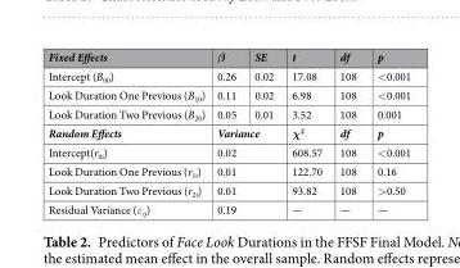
<table><thead><tr><td>Fixed Effects</td><td>β</td><td>SE</td><td>t</td><td>df</td><td>p</td></tr></thead><tbody><tr><td>Intercept (B<sub>00</sub>)</td><td>0.26</td><td>0.02</td><td>17.08</td><td>108</td><td>&lt;0.001</td></tr><tr><td>Look Duration One Previous (B<sub>10</sub>)</td><td>0.11</td><td>0.02</td><td>6.98</td><td>108</td><td>&lt;0.001</td></tr><tr><td>Look Duration Two Previous (B<sub>20</sub>)</td><td>0.05</td><td>0.01</td><td>3.52</td><td>108</td><td>0.001</td></tr><tr><td>Random Effects</td><td colspan="2">Variance</td><td>χ<sup>2</sup></td><td>df</td><td>p</td></tr><tr><td>Intercept(r<sub>0i</sub>)</td><td colspan="2">0.02</td><td>608.57</td><td>108</td><td>&lt;0.001</td></tr><tr><td>Look Duration One Previous (r<sub>1i</sub>)</td><td colspan="2">0.01</td><td>122.70</td><td>108</td><td>0.16</td></tr><tr><td>Look Duration Two Previous (r<sub>2i</sub>)</td><td colspan="2">0.01</td><td>93.82</td><td>108</td><td>&gt;0.50</td></tr><tr><td>Residual Variance (ε<sub>ij</sub>)</td><td colspan="2">0.19</td><td>—</td><td>—</td><td>—</td></tr></tbody></table>